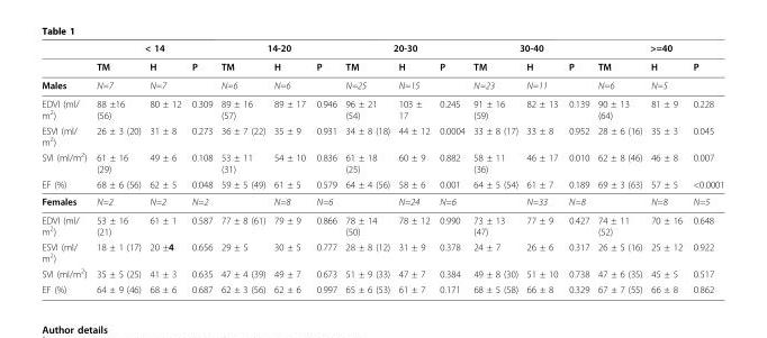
<table><thead><tr><td rowspan="2"></td><td colspan="3">&lt; 14</td><td colspan="3">14-20</td><td colspan="3">20-30</td><td colspan="3">30-40</td><td colspan="3">&gt;=40</td></tr><tr><td>TM</td><td>H</td><td>P</td><td>TM</td><td>H</td><td>P</td><td>TM</td><td>H</td><td>P</td><td>TM</td><td>H</td><td>P</td><td>TM</td><td>H</td><td>P</td></tr></thead><tbody><tr><td>Males</td><td>N=7</td><td>N=7</td><td></td><td>N=6</td><td>N=6</td><td></td><td>N=25</td><td>N=15</td><td></td><td>N=23</td><td>N=11</td><td></td><td>N=6</td><td>N=5</td><td></td></tr><tr><td>EDVI (ml/ m<sup>2</sup>)</td><td>88 ±16 (56)</td><td>80 ± 12</td><td>0.309</td><td>89 ± 16 (57)</td><td>89 ± 17</td><td>0.946</td><td>96 ± 21 (54)</td><td>103 ± 17</td><td>0.245</td><td>91 ± 16 (59)</td><td>82 ± 13</td><td>0.139</td><td>90 ± 13 (64)</td><td>81 ± 9</td><td>0.228</td></tr><tr><td>ESVI (ml/ m<sup>2</sup>)</td><td>26 ± 3 (20)</td><td>31 ± 8</td><td>0.273</td><td>36 ± 7 (22)</td><td>35 ± 9</td><td>0.931</td><td>34 ± 8 (18)</td><td>44 ± 12</td><td>0.0004</td><td>33 ± 8 (17)</td><td>33 ± 8</td><td>0.952</td><td>28 ± 6 (16)</td><td>35 ± 3</td><td>0.045</td></tr><tr><td>SVI (ml/m<sup>2</sup>)</td><td>61 ± 16 (29)</td><td>49 ± 6</td><td>0.108</td><td>53 ± 11 (31)</td><td>54 ± 10</td><td>0.836</td><td>61 ± 18 (25)</td><td>60 ± 9</td><td>0.882</td><td>58 ± 11 (36)</td><td>46 ± 17</td><td>0.010</td><td>62 ± 8 (46)</td><td>46 ± 8</td><td>0.007</td></tr><tr><td>EF (%)</td><td>68 ± 6 (56)</td><td>62 ± 5</td><td>0.048</td><td>59 ± 5 (49)</td><td>61 ± 5</td><td>0.579</td><td>64 ± 4 (56)</td><td>58 ± 6</td><td>0.001</td><td>64 ± 5 (54)</td><td>61 ± 7</td><td>0.189</td><td>69 ± 3 (63)</td><td>57 ± 5</td><td>&lt;0.0001</td></tr><tr><td>Females</td><td>N=2</td><td>N=2</td><td>N=2</td><td></td><td>N=8</td><td>N=6</td><td></td><td>N=24</td><td>N=6</td><td></td><td>N=33</td><td>N=8</td><td></td><td>N=8</td><td>N=5</td></tr><tr><td>EDVI (ml/ m<sup>2</sup>)</td><td>53 ± 16 (21)</td><td>61 ± 1</td><td>0.587</td><td>77 ± 8 (61)</td><td>79 ± 9</td><td>0.866</td><td>78 ± 14 (50)</td><td>78 ± 12</td><td>0.990</td><td>73 ± 13 (47)</td><td>77 ± 9</td><td>0.427</td><td>74 ± 11 (52)</td><td>70 ± 16</td><td>0.648</td></tr><tr><td>ESVI (ml/ m<sup>2</sup>)</td><td>18 ± 1 (17)</td><td>20 ±4</td><td>0.656</td><td>29 ± 5</td><td>30 ± 5</td><td>0.777</td><td>28 ± 8 (12)</td><td>31 ± 9</td><td>0.378</td><td>24 ± 7</td><td>26 ± 6</td><td>0.317</td><td>26 ± 5 (16)</td><td>25 ± 12</td><td>0.922</td></tr><tr><td>SVI (ml/m<sup>2</sup>)</td><td>35 ± 5 (25)</td><td>41 ± 3</td><td>0.635</td><td>47 ± 4 (39)</td><td>49 ± 7</td><td>0.673</td><td>51 ± 9 (33)</td><td>47 ± 7</td><td>0.384</td><td>49 ± 8 (30)</td><td>51 ± 10</td><td>0.738</td><td>47 ± 6 (35)</td><td>45 ± 5</td><td>0.517</td></tr><tr><td>EF (%)</td><td>64 ± 9 (46)</td><td>68 ± 6</td><td>0.687</td><td>62 ± 3 (56)</td><td>62 ± 6</td><td>0.997</td><td>65 ± 6 (53)</td><td>61 ± 7</td><td>0.171</td><td>68 ± 5 (58)</td><td>66 ± 8</td><td>0.329</td><td>67 ± 7 (55)</td><td>66 ± 8</td><td>0.862</td></tr></tbody></table>